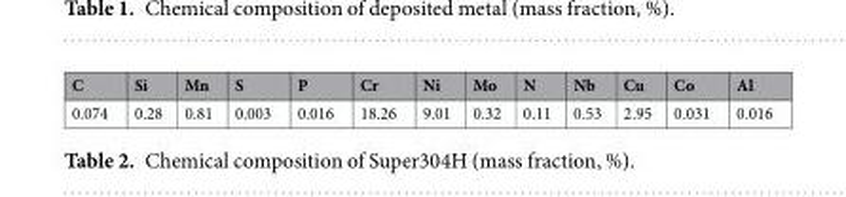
<table><thead><tr><td>C</td><td>Si</td><td>Mn</td><td>S</td><td>P</td><td>Cr</td><td>Ni</td><td>Mo</td><td>N</td><td>Nb</td><td>Cu</td><td>Co</td><td>Al</td></tr></thead><tbody><tr><td>0.074</td><td>0.28</td><td>0.81</td><td>0.003</td><td>0.016</td><td>18.26</td><td>9.01</td><td>0.32</td><td>0.11</td><td>0.53</td><td>2.95</td><td>0.031</td><td>0.016</td></tr></tbody></table>